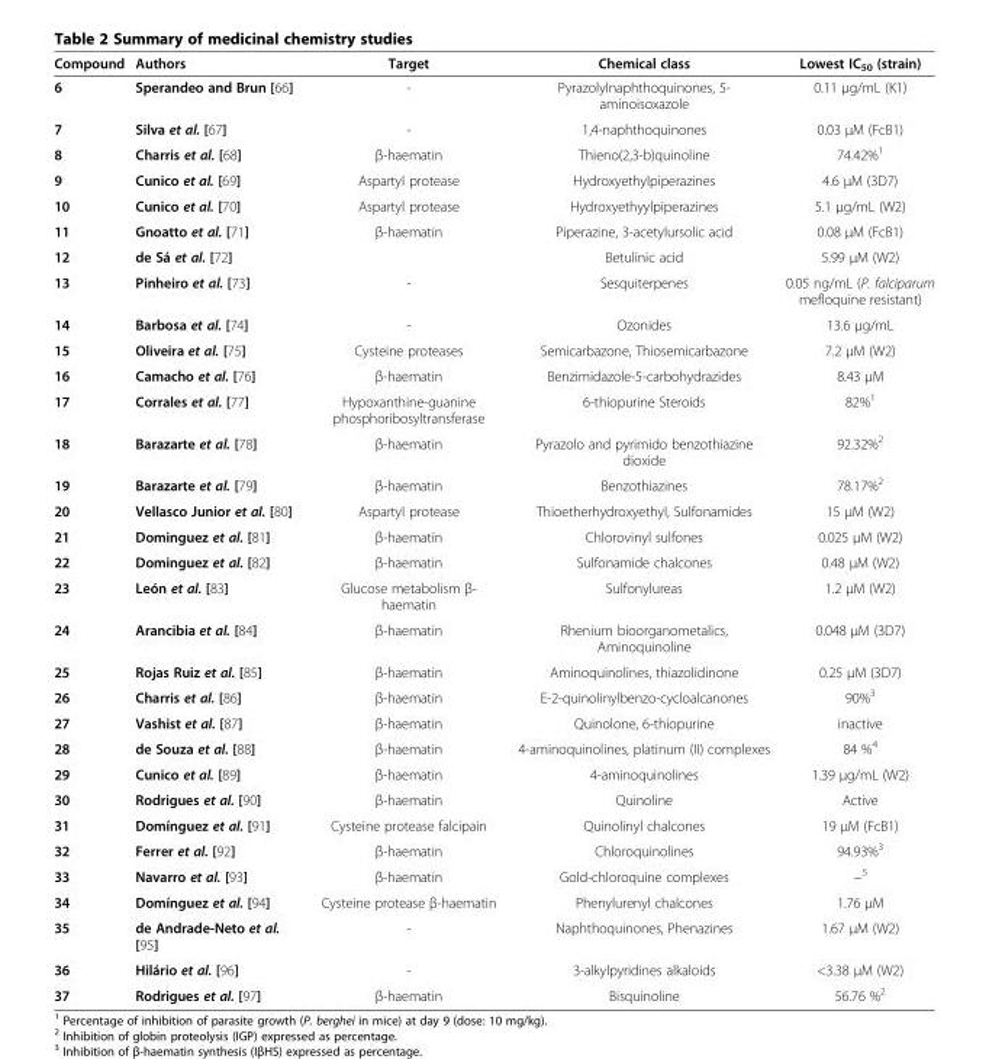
<table><thead><tr><td>Compound</td><td>Authors</td><td>Target</td><td>Chemical class</td><td>Lowest IC<sub>50</sub> (strain)</td></tr></thead><tbody><tr><td>6</td><td>Sperandeo and Brun [66]</td><td>-</td><td>Pyrazolylnaphthoquinones, 5- aminoisoxazole</td><td>0.11 μg/mL (K1)</td></tr><tr><td>7</td><td>Silva et al. [67]</td><td>-</td><td>1,4-naphthoquinones</td><td>0.03 μM (FcB1)</td></tr><tr><td>8</td><td>Charris et al. [68]</td><td>β-haematin</td><td>Thieno(2,3-b)quinoline</td><td>74.42%<sup>1</sup></td></tr><tr><td>9</td><td>Cunico et al. [69]</td><td>Aspartyl protease</td><td>Hydroxyethylpiperazines</td><td>4.6 μM (3D7)</td></tr><tr><td>10</td><td>Cunico et al. [70]</td><td>Aspartyl protease</td><td>Hydroxyethyylpiperazines</td><td>5.1 μg/mL (W2)</td></tr><tr><td>11</td><td>Gnoatto et al. [71]</td><td>β-haematin</td><td>Piperazine, 3-acetylursolic acid</td><td>0.08 μM (FcB1)</td></tr><tr><td>12</td><td>de Sá et al. [72]</td><td></td><td>Betulinic acid</td><td>5.99 μM (W2)</td></tr><tr><td>13</td><td>Pinheiro et al. [73]</td><td>-</td><td>Sesquiterpenes</td><td>0.05 ng/mL (P. falciparum mefloquine resistant)</td></tr><tr><td>14</td><td>Barbosa et al. [74]</td><td>-</td><td>Ozonides</td><td>13.6 μg/mL</td></tr><tr><td>15</td><td>Oliveira et al. [75]</td><td>Cysteine proteases</td><td>Semicarbazone, Thiosemicarbazone</td><td>7.2 μM (W2)</td></tr><tr><td>16</td><td>Camacho et al. [76]</td><td>β-haematin</td><td>Benzimidazole-5-carbohydrazides</td><td>8.43 μM</td></tr><tr><td>17</td><td>Corrales et al. [77]</td><td>Hypoxanthine-guanine phosphoribosyltransferase</td><td>6-thiopurine Steroids</td><td>82%<sup>1</sup></td></tr><tr><td>18</td><td>Barazarte et al. [78]</td><td>β-haematin</td><td>Pyrazolo and pyrimido benzothiazine dioxide</td><td>92.32%<sup>2</sup></td></tr><tr><td>19</td><td>Barazarte et al. [79]</td><td>β-haematin</td><td>Benzothiazines</td><td>78.17%<sup>2</sup></td></tr><tr><td>20</td><td>Vellasco Junior et al. [80]</td><td>Aspartyl protease</td><td>Thioetherhydroxyethyl, Sulfonamides</td><td>15 μM (W2)</td></tr><tr><td>21</td><td>Dominguez et al. [81]</td><td>β-haematin</td><td>Chlorovinyl sulfones</td><td>0.025 μM (W2)</td></tr><tr><td>22</td><td>Dominguez et al. [82]</td><td>β-haematin</td><td>Sulfonamide chalcones</td><td>0.48 μM (W2)</td></tr><tr><td>23</td><td>León et al. [83]</td><td>Glucose metabolism β- haematin</td><td>Sulfonylureas</td><td>1.2 μM (W2)</td></tr><tr><td>24</td><td>Arancibia et al. [84]</td><td>β-haematin</td><td>Rhenium bioorganometalics, Aminoquinoline</td><td>0.048 μM (3D7)</td></tr><tr><td>25</td><td>Rojas Ruiz et al. [85]</td><td>β-haematin</td><td>Aminoquinolines, thiazolidinone</td><td>0.25 μM (3D7)</td></tr><tr><td>26</td><td>Charris et al. [86]</td><td>β-haematin</td><td>E-2-quinolinylbenzo-cycloalcanones</td><td>90%<sup>3</sup></td></tr><tr><td>27</td><td>Vashist et al. [87]</td><td>β-haematin</td><td>Quinolone, 6-thiopurine</td><td>inactive</td></tr><tr><td>28</td><td>de Souza et al. [88]</td><td>β-haematin</td><td>4-aminoquinolines, platinum (II) complexes</td><td>84 %<sup>4</sup></td></tr><tr><td>29</td><td>Cunico et al. [89]</td><td>β-haematin</td><td>4-aminoquinolines</td><td>1.39 μg/mL (W2)</td></tr><tr><td>30</td><td>Rodrigues et al. [90]</td><td>β-haematin</td><td>Quinoline</td><td>Active</td></tr><tr><td>31</td><td>Domínguez et al. [91]</td><td>Cysteine protease falcipain</td><td>Quinolinyl chalcones</td><td>19 μM (FcB1)</td></tr><tr><td>32</td><td>Ferrer et al. [92]</td><td>β-haematin</td><td>Chloroquinolines</td><td>94.93%<sup>3</sup></td></tr><tr><td>33</td><td>Navarro et al. [93]</td><td>β-haematin</td><td>Gold-chloroquine complexes</td><td>−<sup>5</sup></td></tr><tr><td>34</td><td>Domínguez et al. [94]</td><td>Cysteine protease β-haematin</td><td>Phenylurenyl chalcones</td><td>1.76 μM</td></tr><tr><td>35</td><td>de Andrade-Neto et al. [95]</td><td>-</td><td>Naphthoquinones, Phenazines</td><td>1.67 μM (W2)</td></tr><tr><td>36</td><td>Hilário et al. [96]</td><td>-</td><td>3-alkylpyridines alkaloids</td><td>&lt;3.38 μM (W2)</td></tr><tr><td>37</td><td>Rodrigues et al. [97]</td><td>β-haematin</td><td>Bisquinoline</td><td>56.76 %<sup>2</sup></td></tr></tbody></table>